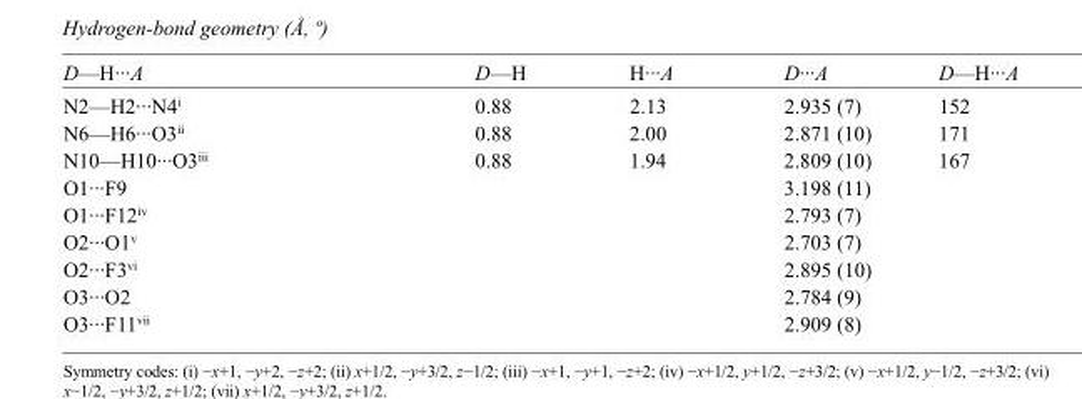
<table><tbody><tr><td>D—H···A</td><td>D—H</td><td>H···A</td><td>D···A</td><td>D—H···A</td></tr><tr><td>N2—H2···N4<sup>i</sup></td><td>0.88</td><td>2.13</td><td>2.935 (7)</td><td>152</td></tr><tr><td>N6—H6···O3<sup>ii</sup></td><td>0.88</td><td>2.00</td><td>2.871 (10)</td><td>171</td></tr><tr><td>N10—H10···O3<sup>iii</sup></td><td>0.88</td><td>1.94</td><td>2.809 (10)</td><td>167</td></tr><tr><td>O1···F9</td><td></td><td></td><td>3.198 (11)</td><td></td></tr><tr><td>O1···F12<sup>iv</sup></td><td></td><td></td><td>2.793 (7)</td><td></td></tr><tr><td>O2···O1<sup>v</sup></td><td></td><td></td><td>2.703 (7)</td><td></td></tr><tr><td>O2···F3<sup>vi</sup></td><td></td><td></td><td>2.895 (10)</td><td></td></tr><tr><td>O3···O2</td><td></td><td></td><td>2.784 (9)</td><td></td></tr><tr><td>O3···F11<sup>vii</sup></td><td></td><td></td><td>2.909 (8)</td><td></td></tr></tbody></table>